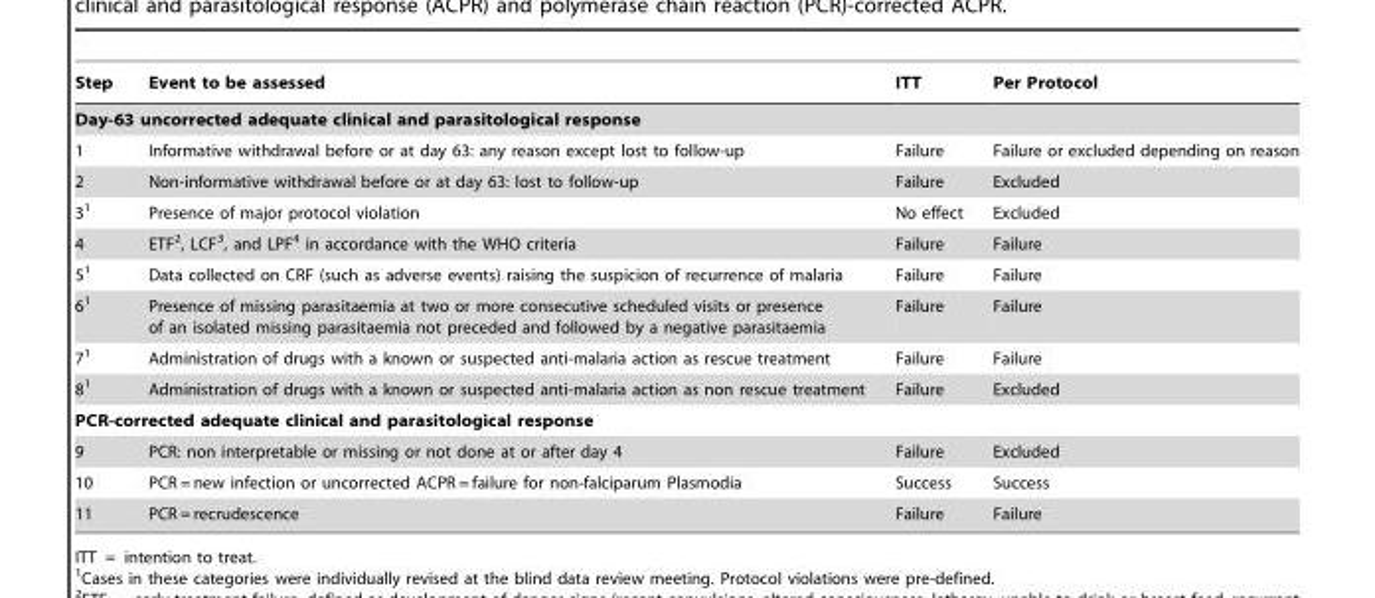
<table><thead><tr><td>Step</td><td>Event to be assessed</td><td>ITT</td><td>Per Protocol</td></tr></thead><tbody><tr><td colspan="4">Day-63 uncorrected adequate clinical and parasitological response</td></tr><tr><td>1</td><td>Informative withdrawal before or at day 63: any reason except lost to follow-up</td><td>Failure</td><td>Failure or excluded depending on reason</td></tr><tr><td>2</td><td>Non-informative withdrawal before or at day 63: lost to follow-up</td><td>Failure</td><td>Excluded</td></tr><tr><td>3<sup>1</sup></td><td>Presence of major protocol violation</td><td>No effect</td><td>Excluded</td></tr><tr><td>4</td><td>ETF<sup>2</sup>, LCF<sup>3</sup>, and LPF<sup>4</sup> in accordance with the WHO criteria</td><td>Failure</td><td>Failure</td></tr><tr><td>5<sup>1</sup></td><td>Data collected on CRF (such as adverse events) raising the suspicion of recurrence of malaria</td><td>Failure</td><td>Failure</td></tr><tr><td>6<sup>1</sup></td><td>Presence of missing parasitaemia at two or more consecutive scheduled visits or presence of an isolated missing parasitaemia not preceded and followed by a negative parasitaemia</td><td>Failure</td><td>Failure</td></tr><tr><td>7<sup>1</sup></td><td>Administration of drugs with a known or suspected anti-malaria action as rescue treatment</td><td>Failure</td><td>Failure</td></tr><tr><td>8<sup>1</sup></td><td>Administration of drugs with a known or suspected anti-malaria action as non rescue treatment</td><td>Failure</td><td>Excluded</td></tr><tr><td colspan="4">PCR-corrected adequate clinical and parasitological response</td></tr><tr><td>9</td><td>PCR: non interpretable or missing or not done at or after day 4</td><td>Failure</td><td>Excluded</td></tr><tr><td>10</td><td>PCR = new infection or uncorrected ACPR = failure for non-falciparum Plasmodia</td><td>Success</td><td>Success</td></tr><tr><td>11</td><td>PCR = recrudescence</td><td>Failure</td><td>Failure</td></tr></tbody></table>